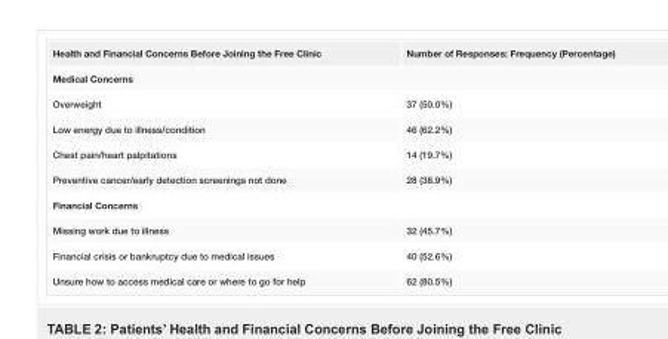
<table><tbody><tr><td>Health and Financial Concerns Before Joining the Free Clinic</td><td>Number of Responses: Frequency (Percentage)</td></tr><tr><td colspan="2">Medical Concerns</td></tr><tr><td>Overweight</td><td>37 (50.0%)</td></tr><tr><td>Low energy due to illness/condition</td><td>46 (62.2%)</td></tr><tr><td>Chest pain/heart palpitations</td><td>14 (19.7%)</td></tr><tr><td>Preventive cancer/early detection screenings not done</td><td>28 (38.9%)</td></tr><tr><td colspan="2">Financial Concerns</td></tr><tr><td>Missing work due to illness</td><td>32 (45.7%)</td></tr><tr><td>Financial crisis or bankruptcy due to medical issues</td><td>40 (52.6%)</td></tr><tr><td>Unsure how to access medical care or where to go for help</td><td>62 (80.5%)</td></tr></tbody></table>